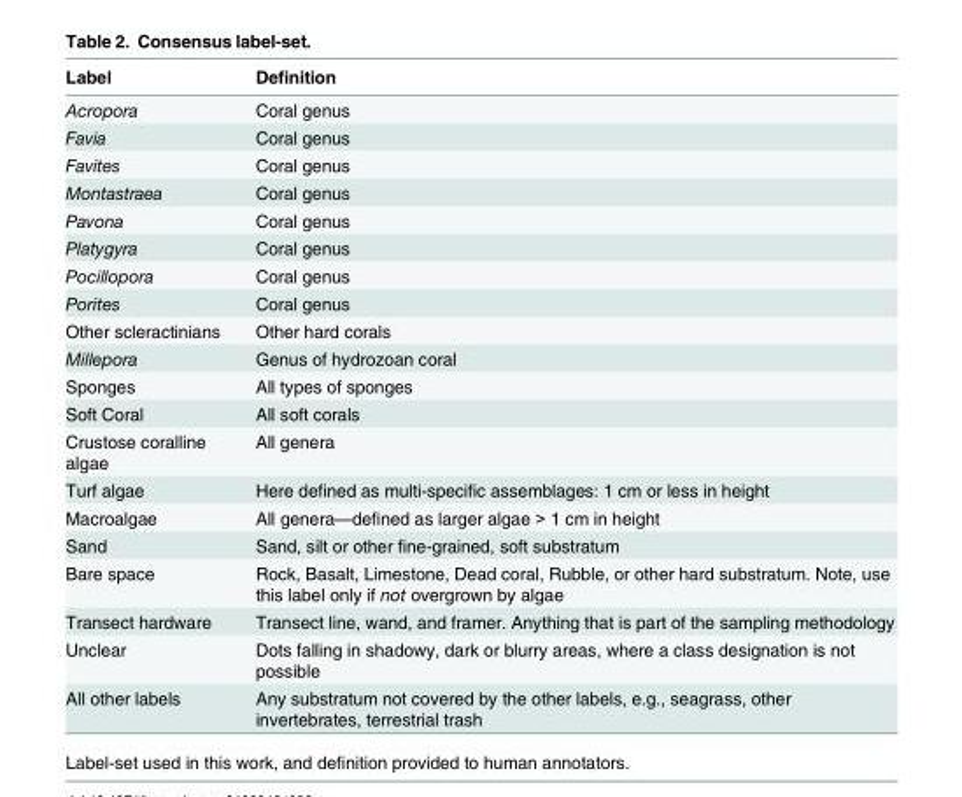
<table><thead><tr><td>Label</td><td>Definition</td></tr></thead><tbody><tr><td>Acropora</td><td>Coral genus</td></tr><tr><td>Favia</td><td>Coral genus</td></tr><tr><td>Favites</td><td>Coral genus</td></tr><tr><td>Montastraea</td><td>Coral genus</td></tr><tr><td>Pavona</td><td>Coral genus</td></tr><tr><td>Platygyra</td><td>Coral genus</td></tr><tr><td>Pocillopora</td><td>Coral genus</td></tr><tr><td>Porites</td><td>Coral genus</td></tr><tr><td>Other scleractinians</td><td>Other hard corals</td></tr><tr><td>Millepora</td><td>Genus of hydrozoan coral</td></tr><tr><td>Sponges</td><td>All types of sponges</td></tr><tr><td>Soft Coral</td><td>All soft corals</td></tr><tr><td>Crustose coralline algae</td><td>All genera</td></tr><tr><td>Turf algae</td><td>Here defined as multi-specific assemblages: 1 cm or less in height</td></tr><tr><td>Macroalgae</td><td>All genera—defined as larger algae &gt; 1 cm in height</td></tr><tr><td>Sand</td><td>Sand, silt or other fine-grained, soft substratum</td></tr><tr><td>Bare space</td><td>Rock, Basalt, Limestone, Dead coral, Rubble, or other hard substratum. Note, use this label only if not overgrown by algae</td></tr><tr><td>Transect hardware</td><td>Transect line, wand, and framer. Anything that is part of the sampling methodology</td></tr><tr><td>Unclear</td><td>Dots falling in shadowy, dark or blurry areas, where a class designation is not possible</td></tr><tr><td>All other labels</td><td>Any substratum not covered by the other labels, e.g., seagrass, other invertebrates, terrestrial trash</td></tr></tbody></table>